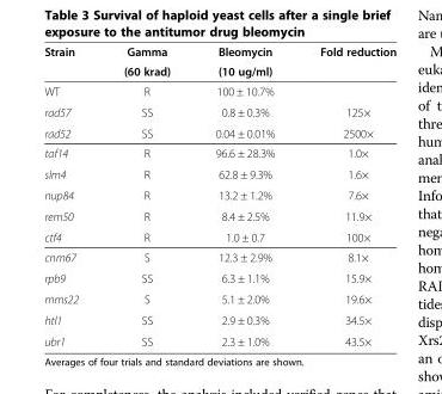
<table><thead><tr><td rowspan="2">Strain</td><td rowspan="2">Gamma (60 krad)</td><td rowspan="2">Bleomycin (10 ug/ml)</td><td rowspan="2">Fold reduction</td></tr><tr></tr></thead><tbody><tr><td>WT</td><td>R</td><td>100 ± 10.7%</td><td></td></tr><tr><td>rad57</td><td>SS</td><td>0.8 ± 0.3%</td><td>125×</td></tr><tr><td>rad52</td><td>SS</td><td>0.04 ± 0.01%</td><td>2500×</td></tr><tr><td>taf14</td><td>R</td><td>96.6 ± 28.3%</td><td>1.0×</td></tr><tr><td>slm4</td><td>R</td><td>62.8 ± 9.3%</td><td>1.6×</td></tr><tr><td>nup84</td><td>R</td><td>13.2 ± 1.2%</td><td>7.6×</td></tr><tr><td>rem50</td><td>R</td><td>8.4 ± 2.5%</td><td>11.9×</td></tr><tr><td>ctf4</td><td>R</td><td>1.0 ± 0.7</td><td>100×</td></tr><tr><td>cnm67</td><td>S</td><td>12.3 ± 2.9%</td><td>8.1×</td></tr><tr><td>rpb9</td><td>SS</td><td>6.3 ± 1.1%</td><td>15.9×</td></tr><tr><td>mms22</td><td>S</td><td>5.1 ± 2.0%</td><td>19.6×</td></tr><tr><td>htl1</td><td>SS</td><td>2.9 ± 0.3%</td><td>34.5×</td></tr><tr><td>ubr1</td><td>SS</td><td>2.3 ± 1.0%</td><td>43.5×</td></tr></tbody></table>